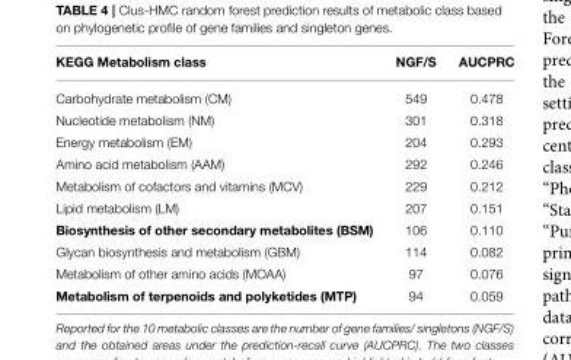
<table><thead><tr><td>KEGG Metabolism class</td><td>NGF/S</td><td>AUCPRC</td></tr></thead><tbody><tr><td>Carbohydrate metabolism (CM)</td><td>549</td><td>0.478</td></tr><tr><td>Nucleotide metabolism (NM)</td><td>301</td><td>0.318</td></tr><tr><td>Energy metabolism (EM)</td><td>204</td><td>0.293</td></tr><tr><td>Amino acid metabolism (AAM)</td><td>292</td><td>0.246</td></tr><tr><td>Metabolism of cofactors and vitamins (MCV)</td><td>229</td><td>0.212</td></tr><tr><td>Lipid metabolism (LM)</td><td>207</td><td>0.151</td></tr><tr><td>Biosynthesis of other secondary metabolites (BSM)</td><td>106</td><td>0.110</td></tr><tr><td>Glycan biosynthesis and metabolism (GBM)</td><td>114</td><td>0.082</td></tr><tr><td>Metabolism of other amino acids (MOAA)</td><td>97</td><td>0.076</td></tr><tr><td>Metabolism of terpenoids and polyketides (MTP)</td><td>94</td><td>0.059</td></tr></tbody></table>